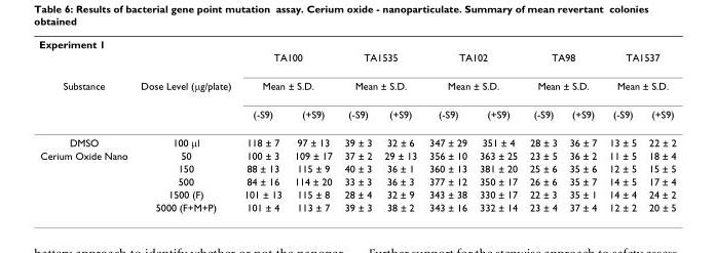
<table><thead><tr><td colspan="12">Experiment 1</td></tr><tr><td rowspan="3">Substance</td><td rowspan="3">Dose Level (μg/plate)</td><td rowspan="2" colspan="2">TA100 Mean ± S.D.</td><td rowspan="2" colspan="2">TA1535 Mean ± S.D.</td><td rowspan="2" colspan="2">TA102 Mean ± S.D.</td><td rowspan="2" colspan="2">TA98 Mean ± S.D.</td><td rowspan="2" colspan="2">TA1537 Mean ± S.D.</td></tr><tr></tr><tr><td>(-S9)</td><td>(+S9)</td><td>(-S9)</td><td>(+S9)</td><td>(-S9)</td><td>(+S9)</td><td>(-S9)</td><td>(+S9)</td><td>(-S9)</td><td>(+S9)</td></tr></thead><tbody><tr><td>DMSO</td><td>100 μl</td><td>118 ± 7</td><td>97 ± 13</td><td>39 ± 3</td><td>32 ± 6</td><td>347 ± 29</td><td>351 ± 4</td><td>28 ± 3</td><td>36 ± 7</td><td>13 ± 5</td><td>22 ± 2</td></tr><tr><td rowspan="5">Cerium Oxide Nano</td><td>50</td><td>100 ± 3</td><td>109 ± 17</td><td>37 ± 2</td><td>29 ± 13</td><td>356 ± 10</td><td>363 ± 25</td><td>23 ± 5</td><td>36 ± 2</td><td>11 ± 5</td><td>18 ± 4</td></tr><tr><td>150</td><td>88 ± 13</td><td>115 ± 9</td><td>40 ± 3</td><td>36 ± 1</td><td>360 ± 13</td><td>381 ± 20</td><td>25 ± 6</td><td>35 ± 6</td><td>12 ± 5</td><td>15 ± 5</td></tr><tr><td>500</td><td>84 ± 16</td><td>114 ± 20</td><td>33 ± 3</td><td>36 ± 3</td><td>377 ± 12</td><td>350 ± 17</td><td>26 ± 6</td><td>35 ± 7</td><td>14 ± 5</td><td>17 ± 4</td></tr><tr><td>1500 (F)</td><td>101 ± 13</td><td>115 ± 8</td><td>28 ± 4</td><td>32 ± 9</td><td>343 ± 38</td><td>330 ± 17</td><td>22 ± 3</td><td>35 ± 1</td><td>14 ± 4</td><td>24 ± 2</td></tr><tr><td>5000 (F+M+P)</td><td>101 ± 4</td><td>113 ± 7</td><td>39 ± 3</td><td>38 ± 2</td><td>343 ± 16</td><td>332 ± 14</td><td>23 ± 4</td><td>37 ± 4</td><td>12 ± 2</td><td>20 ± 5</td></tr></tbody></table>